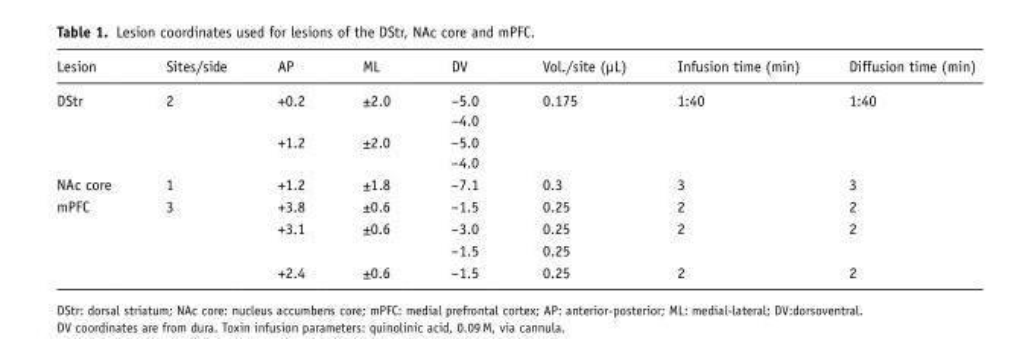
<table><thead><tr><td>Lesion</td><td>Sites/side</td><td>AP</td><td>ML</td><td>DV</td><td>Vol./site (μL)</td><td>Infusion time (min)</td><td>Diffusion time (min)</td></tr></thead><tbody><tr><td rowspan="2">DStr</td><td rowspan="2">2</td><td>+0.2</td><td>±2.0</td><td>–5.0 –4.0</td><td>0.175</td><td>1:40</td><td>1:40</td></tr><tr><td>+1.2</td><td>±2.0</td><td>–5.0 –4.0</td><td></td><td></td><td></td></tr><tr><td>NAc core</td><td>1</td><td>+1.2</td><td>±1.8</td><td>–7.1</td><td>0.3</td><td>3</td><td>3</td></tr><tr><td rowspan="4">mPFC</td><td rowspan="4">3</td><td>+3.8</td><td>±0.6</td><td>–1.5</td><td>0.25</td><td>2</td><td>2</td></tr><tr><td>+3.1</td><td>±0.6</td><td>–3.0</td><td>0.25</td><td>2</td><td>2</td></tr><tr><td></td><td></td><td>–1.5</td><td>0.25</td><td></td><td></td></tr><tr><td>+2.4</td><td>±0.6</td><td>–1.5</td><td>0.25</td><td>2</td><td>2</td></tr></tbody></table>